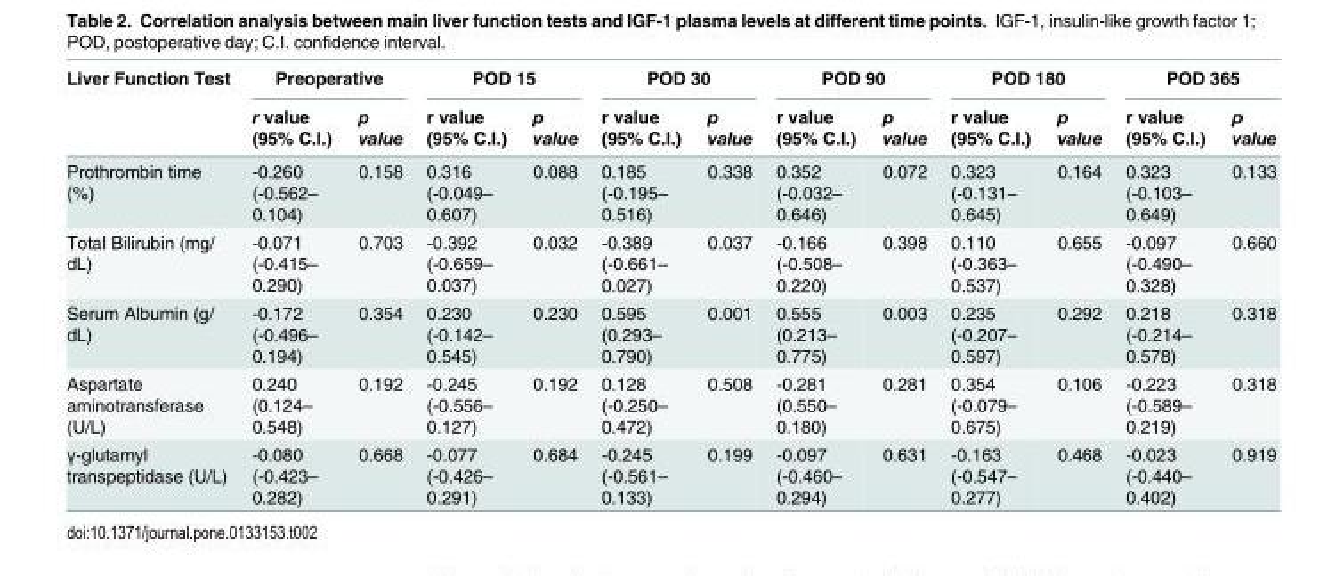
<table><thead><tr><td rowspan="2">Liver Function Test</td><td colspan="2">Preoperative</td><td colspan="2">POD 15</td><td colspan="2">POD 30</td><td colspan="2">POD 90</td><td colspan="2">POD 180</td><td colspan="2">POD 365</td></tr><tr><td>r value (95% C.I.)</td><td>p value</td><td>r value (95% C.I.)</td><td>p value</td><td>r value (95% C.I.)</td><td>p value</td><td>r value (95% C.I.)</td><td>p value</td><td>r value (95% C.I.)</td><td>p value</td><td>r value (95% C.I.)</td><td>p value</td></tr></thead><tbody><tr><td>Prothrombin time (%)</td><td>-0.260 (-0.562– 0.104)</td><td>0.158</td><td>0.316 (-0.049– 0.607)</td><td>0.088</td><td>0.185 (-0.195– 0.516)</td><td>0.338</td><td>0.352 (-0.032– 0.646)</td><td>0.072</td><td>0.323 (-0.131– 0.645)</td><td>0.164</td><td>0.323 (-0.103– 0.649)</td><td>0.133</td></tr><tr><td>Total Bilirubin (mg/ dL)</td><td>-0.071 (-0.415– 0.290)</td><td>0.703</td><td>-0.392 (-0.659– 0.037)</td><td>0.032</td><td>-0.389 (-0.661– 0.027)</td><td>0.037</td><td>-0.166 (-0.508– 0.220)</td><td>0.398</td><td>0.110 (-0.363– 0.537)</td><td>0.655</td><td>-0.097 (-0.490– 0.328)</td><td>0.660</td></tr><tr><td>Serum Albumin (g/ dL)</td><td>-0.172 (-0.496– 0.194)</td><td>0.354</td><td>0.230 (-0.142– 0.545)</td><td>0.230</td><td>0.595 (0.293– 0.790)</td><td>0.001</td><td>0.555 (0.213– 0.775)</td><td>0.003</td><td>0.235 (-0.207– 0.597)</td><td>0.292</td><td>0.218 (-0.214– 0.578)</td><td>0.318</td></tr><tr><td>Aspartate aminotransferase (U/L)</td><td>0.240 (0.124– 0.548)</td><td>0.192</td><td>-0.245 (-0.556– 0.127)</td><td>0.192</td><td>0.128 (-0.250– 0.472)</td><td>0.508</td><td>-0.281 (0.550– 0.180)</td><td>0.281</td><td>0.354 (-0.079– 0.675)</td><td>0.106</td><td>-0.223 (-0.589– 0.219)</td><td>0.318</td></tr><tr><td>γ-glutamyl transpeptidase (U/L)</td><td>-0.080 (-0.423– 0.282)</td><td>0.668</td><td>-0.077 (-0.426– 0.291)</td><td>0.684</td><td>-0.245 (-0.561– 0.133)</td><td>0.199</td><td>-0.097 (-0.460– 0.294)</td><td>0.631</td><td>-0.163 (-0.547– 0.277)</td><td>0.468</td><td>-0.023 (-0.440– 0.402)</td><td>0.919</td></tr></tbody></table>